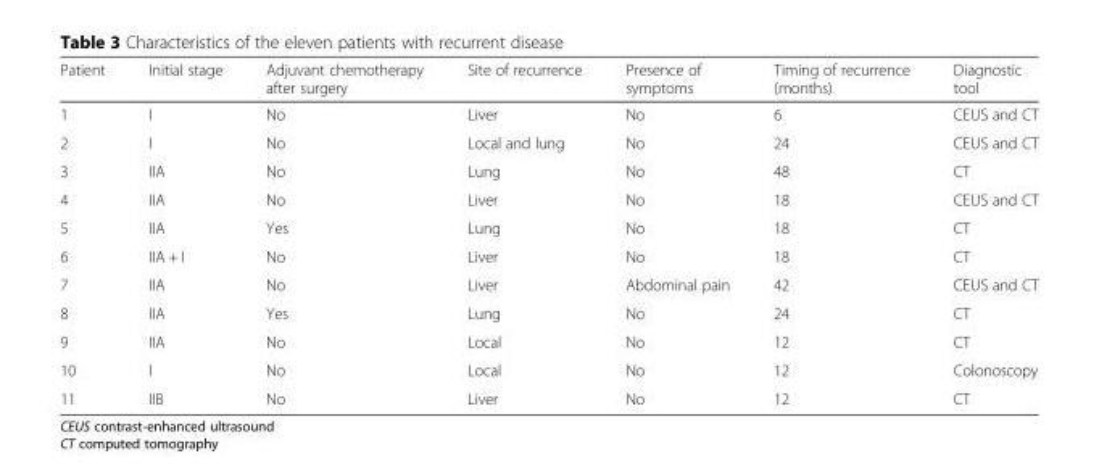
<table><thead><tr><td>Patient</td><td>Initial stage</td><td>Adjuvant chemotherapy after surgery</td><td>Site of recurrence</td><td>Presence of symptoms</td><td>Timing of recurrence (months)</td><td>Diagnostic tool</td></tr></thead><tbody><tr><td>1</td><td>I</td><td>No</td><td>Liver</td><td>No</td><td>6</td><td>CEUS and CT</td></tr><tr><td>2</td><td>I</td><td>No</td><td>Local and lung</td><td>No</td><td>24</td><td>CEUS and CT</td></tr><tr><td>3</td><td>IIA</td><td>No</td><td>Lung</td><td>No</td><td>48</td><td>CT</td></tr><tr><td>4</td><td>IIA</td><td>No</td><td>Liver</td><td>No</td><td>18</td><td>CEUS and CT</td></tr><tr><td>5</td><td>IIA</td><td>Yes</td><td>Lung</td><td>No</td><td>18</td><td>CT</td></tr><tr><td>6</td><td>IIA + I</td><td>No</td><td>Liver</td><td>No</td><td>18</td><td>CT</td></tr><tr><td>7</td><td>IIA</td><td>No</td><td>Liver</td><td>Abdominal pain</td><td>42</td><td>CEUS and CT</td></tr><tr><td>8</td><td>IIA</td><td>Yes</td><td>Lung</td><td>No</td><td>24</td><td>CT</td></tr><tr><td>9</td><td>IIA</td><td>No</td><td>Local</td><td>No</td><td>12</td><td>CT</td></tr><tr><td>10</td><td>I</td><td>No</td><td>Local</td><td>No</td><td>12</td><td>Colonoscopy</td></tr><tr><td>11</td><td>IIB</td><td>No</td><td>Liver</td><td>No</td><td>12</td><td>CT</td></tr></tbody></table>